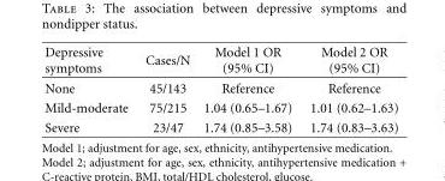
<table><thead><tr><td>Depressive symptoms</td><td>Cases/N</td><td>Model 1 OR (95% CI)</td><td>Model 2 OR (95% CI)</td></tr></thead><tbody><tr><td>None</td><td>45/143</td><td>Reference</td><td>Reference</td></tr><tr><td>Mild-moderate</td><td>75/215</td><td>1.04 (0.65–1.67)</td><td>1.01 (0.62–1.63)</td></tr><tr><td>Severe</td><td>23/47</td><td>1.74 (0.85–3.58)</td><td>1.74 (0.83–3.63)</td></tr></tbody></table>